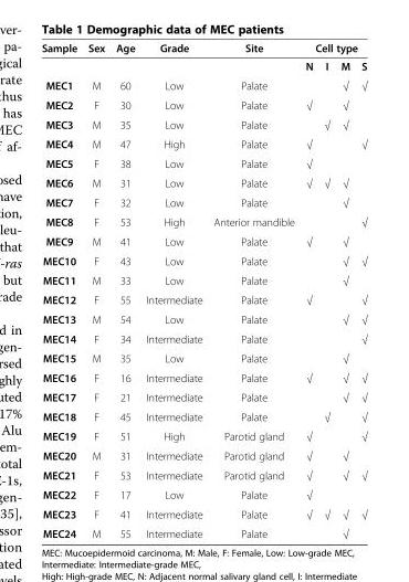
<table><thead><tr><td rowspan="2">Sample</td><td rowspan="2">Sex</td><td rowspan="2">Age</td><td rowspan="2">Grade</td><td rowspan="2">Site</td><td colspan="4">Cell type</td></tr><tr><td>N</td><td>I</td><td>M</td><td>S</td></tr></thead><tbody><tr><td>MEC1</td><td>M</td><td>60</td><td>Low</td><td>Palate</td><td></td><td></td><td>√</td><td>√</td></tr><tr><td>MEC2</td><td>F</td><td>30</td><td>Low</td><td>Palate</td><td>√</td><td></td><td>√</td><td></td></tr><tr><td>MEC3</td><td>M</td><td>35</td><td>Low</td><td>Palate</td><td></td><td>√</td><td>√</td><td></td></tr><tr><td>MEC4</td><td>M</td><td>47</td><td>High</td><td>Palate</td><td>√</td><td></td><td></td><td>√</td></tr><tr><td>MEC5</td><td>F</td><td>38</td><td>Low</td><td>Palate</td><td>√</td><td></td><td></td><td></td></tr><tr><td>MEC6</td><td>M</td><td>31</td><td>Low</td><td>Palate</td><td>√</td><td>√</td><td>√</td><td></td></tr><tr><td>MEC7</td><td>F</td><td>32</td><td>Low</td><td>Palate</td><td></td><td></td><td>√</td><td></td></tr><tr><td>MEC8</td><td>F</td><td>53</td><td>High</td><td>Anterior mandible</td><td></td><td></td><td></td><td>√</td></tr><tr><td>MEC9</td><td>M</td><td>41</td><td>Low</td><td>Palate</td><td>√</td><td></td><td>√</td><td></td></tr><tr><td>MEC10</td><td>F</td><td>43</td><td>Low</td><td>Palate</td><td></td><td></td><td>√</td><td>√</td></tr><tr><td>MEC11</td><td>M</td><td>33</td><td>Low</td><td>Palate</td><td></td><td></td><td>√</td><td></td></tr><tr><td>MEC12</td><td>F</td><td>55</td><td>Intermediate</td><td>Palate</td><td>√</td><td></td><td></td><td>√</td></tr><tr><td>MEC13</td><td>M</td><td>54</td><td>Low</td><td>Palate</td><td></td><td></td><td>√</td><td>√</td></tr><tr><td>MEC14</td><td>F</td><td>34</td><td>Intermediate</td><td>Palate</td><td></td><td></td><td></td><td>√</td></tr><tr><td>MEC15</td><td>M</td><td>35</td><td>Low</td><td>Palate</td><td></td><td></td><td>√</td><td></td></tr><tr><td>MEC16</td><td>F</td><td>16</td><td>Intermediate</td><td>Palate</td><td>√</td><td></td><td>√</td><td>√</td></tr><tr><td>MEC17</td><td>F</td><td>21</td><td>Intermediate</td><td>Palate</td><td></td><td></td><td>√</td><td>√</td></tr><tr><td>MEC18</td><td>F</td><td>45</td><td>Intermediate</td><td>Palate</td><td></td><td>√</td><td></td><td>√</td></tr><tr><td>MEC19</td><td>F</td><td>51</td><td>High</td><td>Parotid gland</td><td>√</td><td></td><td></td><td>√</td></tr><tr><td>MEC20</td><td>M</td><td>31</td><td>Intermediate</td><td>Parotid gland</td><td>√</td><td></td><td>√</td><td></td></tr><tr><td>MEC21</td><td>F</td><td>53</td><td>Intermediate</td><td>Parotid gland</td><td>√</td><td></td><td>√</td><td>√</td></tr><tr><td>MEC22</td><td>F</td><td>17</td><td>Low</td><td>Palate</td><td>√</td><td></td><td></td><td></td></tr><tr><td>MEC23</td><td>F</td><td>41</td><td>Intermediate</td><td>Palate</td><td>√</td><td>√</td><td>√</td><td>√</td></tr><tr><td>MEC24</td><td>M</td><td>55</td><td>Intermediate</td><td>Palate</td><td></td><td></td><td>√</td><td></td></tr></tbody></table>